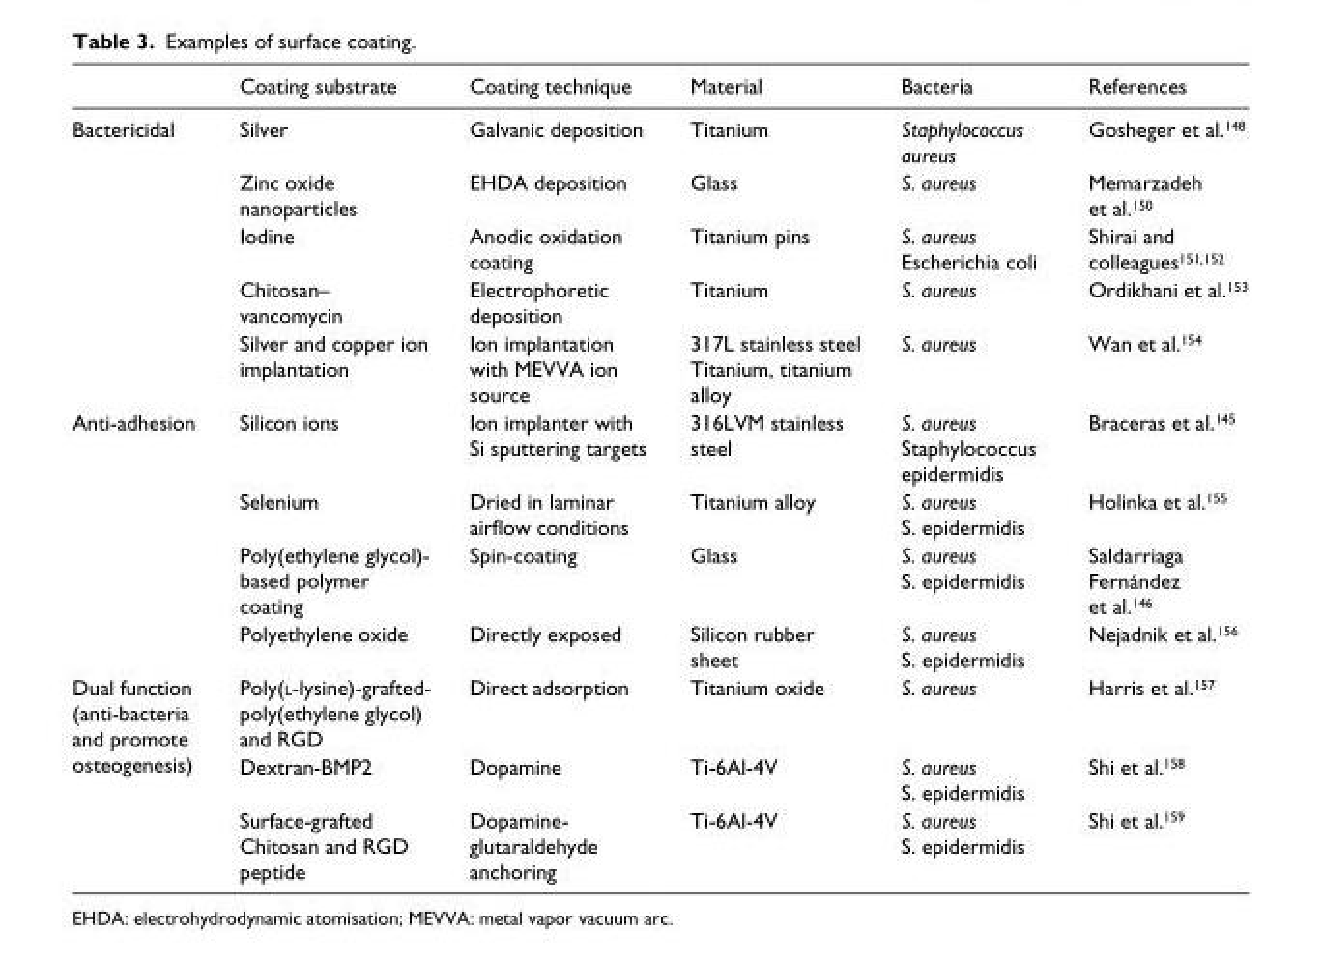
<table><thead><tr><td></td><td>Coating substrate</td><td>Coating technique</td><td>Material</td><td>Bacteria</td><td>References</td></tr></thead><tbody><tr><td rowspan="5">Bactericidal</td><td>Silver</td><td>Galvanic deposition</td><td>Titanium</td><td>Staphylococcus aureus</td><td>Gosheger et al.<sup>148</sup></td></tr><tr><td>Zinc oxide nanoparticles</td><td>EHDA deposition</td><td>Glass</td><td>S. aureus</td><td>Memarzadeh et al.<sup>150</sup></td></tr><tr><td>Iodine</td><td>Anodic oxidation coating</td><td>Titanium pins</td><td>S. aureus Escherichia coli</td><td>Shirai and colleagues<sup>151,152</sup></td></tr><tr><td>Chitosan– vancomycin</td><td>Electrophoretic deposition</td><td>Titanium</td><td>S. aureus</td><td>Ordikhani et al.<sup>153</sup></td></tr><tr><td>Silver and copper ion implantation</td><td>Ion implantation with MEVVA ion source</td><td>317L stainless steel Titanium, titanium alloy</td><td>S. aureus</td><td>Wan et al.<sup>154</sup></td></tr><tr><td rowspan="4">Anti-adhesion</td><td>Silicon ions</td><td>Ion implanter with Si sputtering targets</td><td>316LVM stainless steel</td><td>S. aureus Staphylococcus epidermidis</td><td>Braceras et al.<sup>145</sup></td></tr><tr><td>Selenium</td><td>Dried in laminar airflow conditions</td><td>Titanium alloy</td><td>S. aureus S. epidermidis</td><td>Holinka et al.<sup>155</sup></td></tr><tr><td>Poly(ethylene glycol)- based polymer coating</td><td>Spin-coating</td><td>Glass</td><td>S. aureus S. epidermidis</td><td>Saldarriaga Fernández et al.<sup>146</sup></td></tr><tr><td>Polyethylene oxide</td><td>Directly exposed</td><td>Silicon rubber sheet</td><td>S. aureus S. epidermidis</td><td>Nejadnik et al.<sup>156</sup></td></tr><tr><td rowspan="3">Dual function (anti-bacteria and promote osteogenesis)</td><td>Poly(l-lysine)-grafted- poly(ethylene glycol) and RGD</td><td>Direct adsorption</td><td>Titanium oxide</td><td>S. aureus</td><td>Harris et al.<sup>157</sup></td></tr><tr><td>Dextran-BMP2</td><td>Dopamine</td><td>Ti-6Al-4V</td><td>S. aureus S. epidermidis</td><td>Shi et al.<sup>158</sup></td></tr><tr><td>Surface-grafted Chitosan and RGD peptide</td><td>Dopamine- glutaraldehyde anchoring</td><td>Ti-6Al-4V</td><td>S. aureus S. epidermidis</td><td>Shi et al.<sup>159</sup></td></tr></tbody></table>